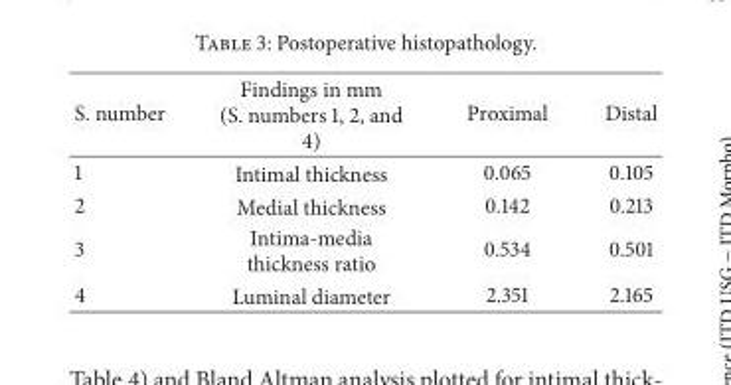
<table><thead><tr><td>S. number</td><td>Findings in mm (S. numbers 1, 2, and 4)</td><td>Proximal</td><td>Distal</td></tr></thead><tbody><tr><td>1</td><td>Intimal thickness</td><td>0.065</td><td>0.105</td></tr><tr><td>2</td><td>Medial thickness</td><td>0.142</td><td>0.213</td></tr><tr><td>3</td><td>Intima-media thickness ratio</td><td>0.534</td><td>0.501</td></tr><tr><td>4</td><td>Luminal diameter</td><td>2.351</td><td>2.165</td></tr></tbody></table>